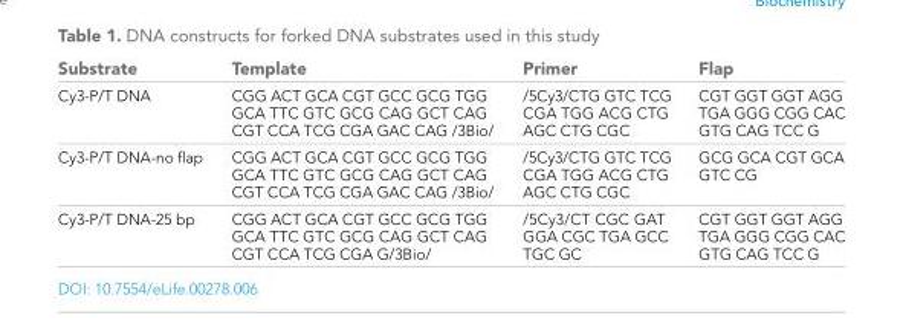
<table><thead><tr><td>Substrate</td><td>Template</td><td>Primer</td><td>Flap</td></tr></thead><tbody><tr><td>Cy3-P/T DNA</td><td>CGG ACT GCA CGT GCC GCG TGG GCA TTC GTC GCG CAG GCT CAG CGT CCA TCG CGA GAC CAG /3Bio/</td><td>/5Cy3/CTG GTC TCG CGA TGG ACG CTG AGC CTG CGC</td><td>CGT GGT GGT AGG TGA GGG CGG CAC GTG CAG TCC G</td></tr><tr><td>Cy3-P/T DNA-no flap</td><td>CGG ACT GCA CGT GCC GCG TGG GCA TTC GTC GCG CAG GCT CAG CGT CCA TCG CGA GAC CAG /3Bio/</td><td>/5Cy3/CTG GTC TCG CGA TGG ACG CTG AGC CTG CGC</td><td>GCG GCA CGT GCA GTC CG</td></tr><tr><td>Cy3-P/T DNA-25 bp</td><td>CGG ACT GCA CGT GCC GCG TGG GCA TTC GTC GCG CAG GCT CAG CGT CCA TCG CGA G/3Bio/</td><td>/5Cy3/CT CGC GAT GGA CGC TGA GCC TGC GC</td><td>CGT GGT GGT AGG TGA GGG CGG CAC GTG CAG TCC G</td></tr></tbody></table>